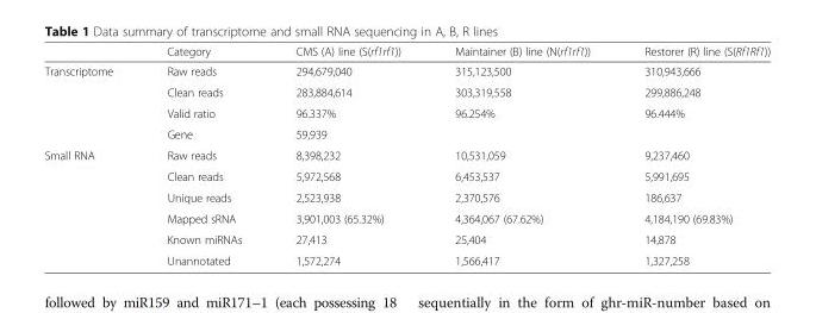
<table><thead><tr><td></td><td>Category</td><td>CMS (A) line (S(rf1rf1))</td><td>Maintainer (B) line (N(rf1rf1))</td><td>Restorer (R) line (S(Rf1Rf1))</td></tr></thead><tbody><tr><td rowspan="4">Transcriptome</td><td>Raw reads</td><td>294,679,040</td><td>315,123,500</td><td>310,943,666</td></tr><tr><td>Clean reads</td><td>283,884,614</td><td>303,319,558</td><td>299,886,248</td></tr><tr><td>Valid ratio</td><td>96.337%</td><td>96.254%</td><td>96.444%</td></tr><tr><td>Gene</td><td colspan="3">59,939</td></tr><tr><td rowspan="6">Small RNA</td><td>Raw reads</td><td>8,398,232</td><td>10,531,059</td><td>9,237,460</td></tr><tr><td>Clean reads</td><td>5,972,568</td><td>6,453,537</td><td>5,991,695</td></tr><tr><td>Unique reads</td><td>2,523,938</td><td>2,370,576</td><td>186,637</td></tr><tr><td>Mapped sRNA</td><td>3,901,003 (65.32%)</td><td>4,364,067 (67.62%)</td><td>4,184,190 (69.83%)</td></tr><tr><td>Known miRNAs</td><td>27,413</td><td>25,404</td><td>14,878</td></tr><tr><td>Unannotated</td><td>1,572,274</td><td>1,566,417</td><td>1,327,258</td></tr></tbody></table>